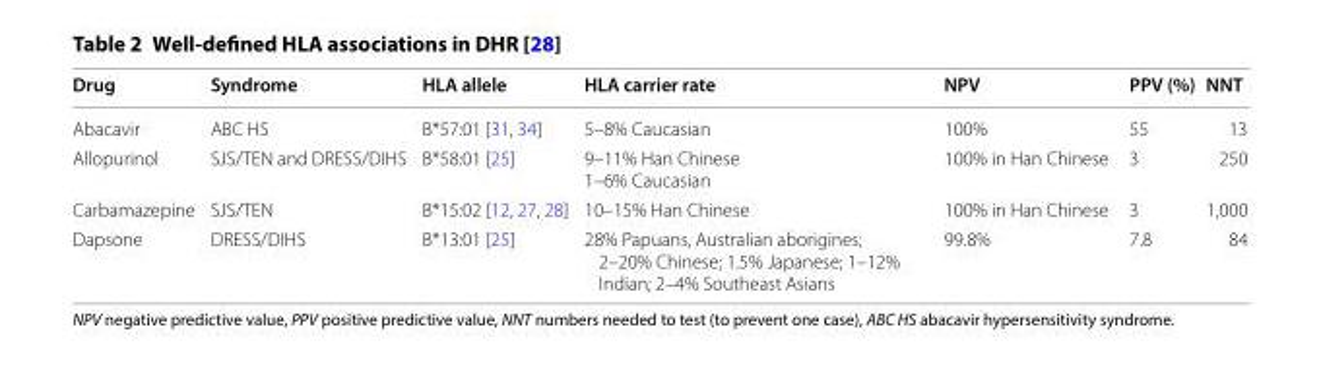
<table><thead><tr><td>Drug</td><td>Syndrome</td><td>HLA allele</td><td>HLA carrier rate</td><td>NPV</td><td>PPV (%)</td><td>NNT</td></tr></thead><tbody><tr><td>Abacavir</td><td>ABC HS</td><td>B*57:01 [31, 34]</td><td>5–8% Caucasian</td><td>100%</td><td>55</td><td>13</td></tr><tr><td>Allopurinol</td><td>SJS/TEN and DRESS/DIHS</td><td>B*58:01 [25]</td><td>9–11% Han Chinese 1–6% Caucasian</td><td>100% in Han Chinese</td><td>3</td><td>250</td></tr><tr><td>Carbamazepine</td><td>SJS/TEN</td><td>B*15:02 [12, 27, 28]</td><td>10–15% Han Chinese</td><td>100% in Han Chinese</td><td>3</td><td>1,000</td></tr><tr><td>Dapsone</td><td>DRESS/DIHS</td><td>B*13:01 [25]</td><td>28% Papuans, Australian aborigines; 2–20% Chinese; 1.5% Japanese; 1–12% Indian; 2–4% Southeast Asians</td><td>99.8%</td><td>7.8</td><td>84</td></tr></tbody></table>